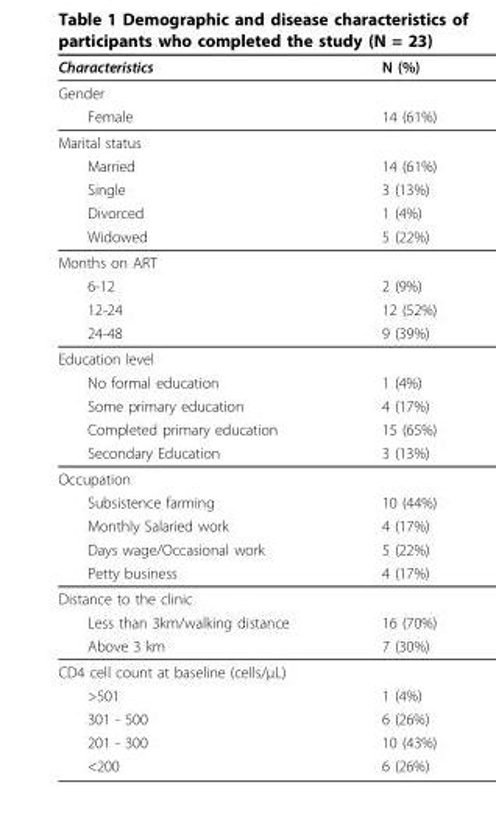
<table><thead><tr><td>Characteristics</td><td>N (%)</td></tr></thead><tbody><tr><td colspan="2">Gender</td></tr><tr><td>Female</td><td>14 (61%)</td></tr><tr><td colspan="2">Marital status</td></tr><tr><td>Married</td><td>14 (61%)</td></tr><tr><td>Single</td><td>3 (13%)</td></tr><tr><td>Divorced</td><td>1 (4%)</td></tr><tr><td>Widowed</td><td>5 (22%)</td></tr><tr><td colspan="2">Months on ART</td></tr><tr><td>6-12</td><td>2 (9%)</td></tr><tr><td>12-24</td><td>12 (52%)</td></tr><tr><td>24-48</td><td>9 (39%)</td></tr><tr><td colspan="2">Education level</td></tr><tr><td>No formal education</td><td>1 (4%)</td></tr><tr><td>Some primary education</td><td>4 (17%)</td></tr><tr><td>Completed primary education</td><td>15 (65%)</td></tr><tr><td>Secondary Education</td><td>3 (13%)</td></tr><tr><td colspan="2">Occupation</td></tr><tr><td>Subsistence farming</td><td>10 (44%)</td></tr><tr><td>Monthly Salaried work</td><td>4 (17%)</td></tr><tr><td>Days wage/Occasional work</td><td>5 (22%)</td></tr><tr><td>Petty business</td><td>4 (17%)</td></tr><tr><td colspan="2">Distance to the clinic</td></tr><tr><td>Less than 3km/walking distance</td><td>16 (70%)</td></tr><tr><td>Above 3 km</td><td>7 (30%)</td></tr><tr><td colspan="2">CD4 cell count at baseline (cells/μL)</td></tr><tr><td>&gt;501</td><td>1 (4%)</td></tr><tr><td>301 - 500</td><td>6 (26%)</td></tr><tr><td>201 - 300</td><td>10 (43%)</td></tr><tr><td>&lt;200</td><td>6 (26%)</td></tr></tbody></table>